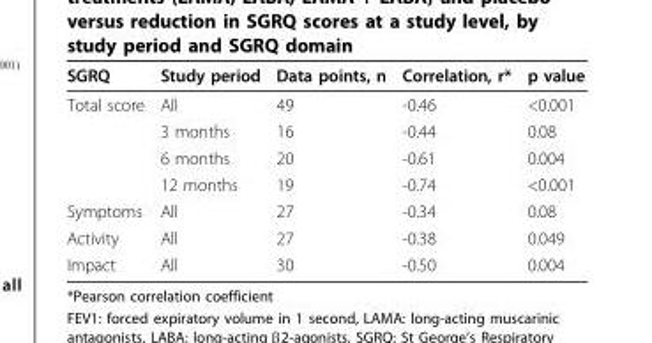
<table><thead><tr><td>SGRQ</td><td>Study period</td><td>Data points, n</td><td>Correlation, r*</td><td>p value</td></tr></thead><tbody><tr><td rowspan="4">Total score</td><td>All</td><td>49</td><td>-0.46</td><td>&lt;0.001</td></tr><tr><td>3 months</td><td>16</td><td>-0.44</td><td>0.08</td></tr><tr><td>6 months</td><td>20</td><td>-0.61</td><td>0.004</td></tr><tr><td>12 months</td><td>19</td><td>-0.74</td><td>&lt;0.001</td></tr><tr><td>Symptoms</td><td>All</td><td>27</td><td>-0.34</td><td>0.08</td></tr><tr><td>Activity</td><td>All</td><td>27</td><td>-0.38</td><td>0.049</td></tr><tr><td>Impact</td><td>All</td><td>30</td><td>-0.50</td><td>0.004</td></tr></tbody></table>